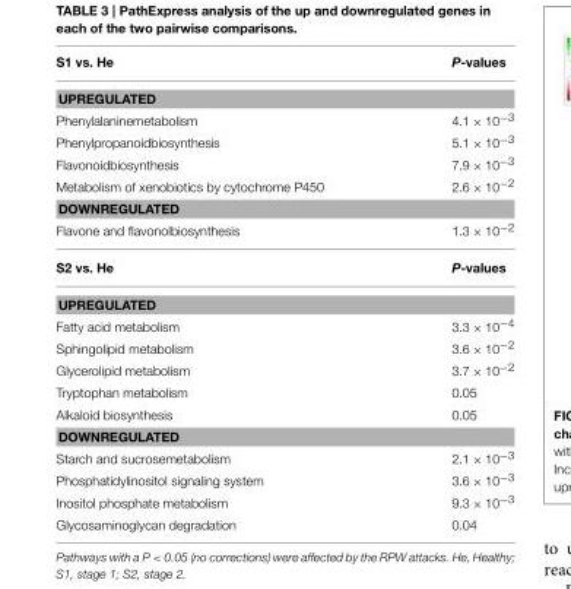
<table><thead><tr><td>S1 vs. He</td><td>P-values</td></tr></thead><tbody><tr><td colspan="2">UPREGULATED</td></tr><tr><td>Phenylalaninemetabolism</td><td>4.1 × 10<sup>−3</sup></td></tr><tr><td>Phenylpropanoidbiosynthesis</td><td>5.1 × 10<sup>−3</sup></td></tr><tr><td>Flavonoidbiosynthesis</td><td>7.9 × 10<sup>−3</sup></td></tr><tr><td>Metabolism of xenobiotics by cytochrome P450</td><td>2.6 × 10<sup>−2</sup></td></tr><tr><td colspan="2">DOWNREGULATED</td></tr><tr><td>Flavone and flavonolbiosynthesis</td><td>1.3 × 10<sup>−2</sup></td></tr><tr><td>S2 vs. He</td><td>P-values</td></tr><tr><td colspan="2">UPREGULATED</td></tr><tr><td>Fatty acid metabolism</td><td>3.3 × 10<sup>−4</sup></td></tr><tr><td>Sphingolipid metabolism</td><td>3.6 × 10<sup>−2</sup></td></tr><tr><td>Glycerolipid metabolism</td><td>3.7 × 10<sup>−2</sup></td></tr><tr><td>Tryptophan metabolism</td><td>0.05</td></tr><tr><td>Alkaloid biosynthesis</td><td>0.05</td></tr><tr><td colspan="2">DOWNREGULATED</td></tr><tr><td>Starch and sucrosemetabolism</td><td>2.1 × 10<sup>−3</sup></td></tr><tr><td>Phosphatidylinositol signaling system</td><td>3.6 × 10<sup>−3</sup></td></tr><tr><td>Inositol phosphate metabolism</td><td>9.3 × 10<sup>−3</sup></td></tr><tr><td>Glycosaminoglycan degradation</td><td>0.04</td></tr></tbody></table>